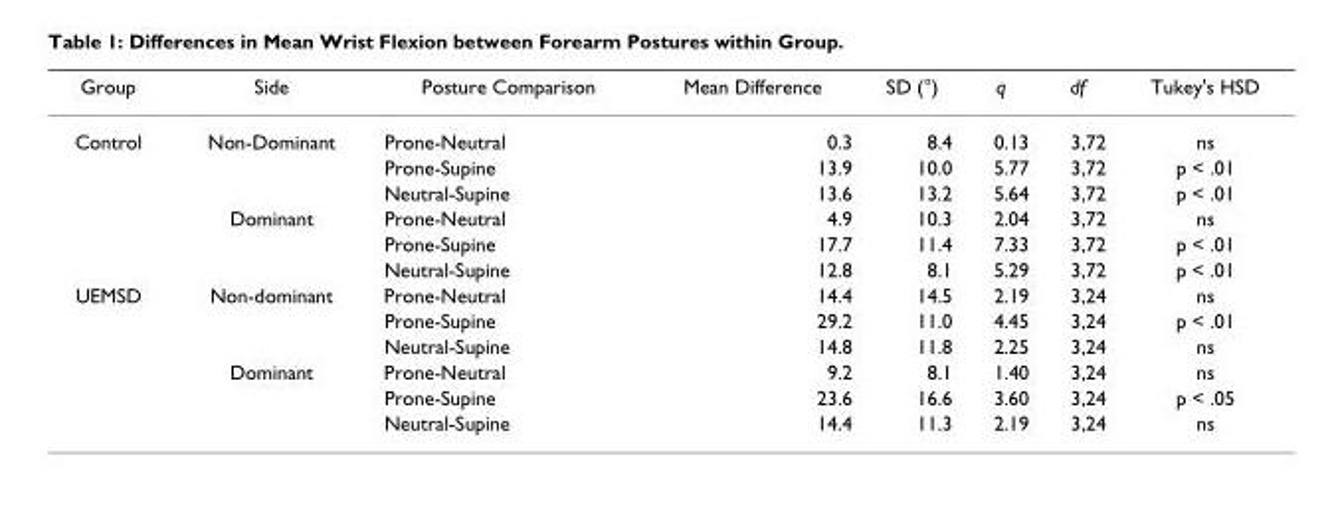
<table><thead><tr><td>Group</td><td>Side</td><td>Posture Comparison</td><td>Mean Difference</td><td>SD (°)</td><td>q</td><td>df</td><td>Tukey&#x27;s HSD</td></tr></thead><tbody><tr><td rowspan="6">Control</td><td>Non-Dominant</td><td>Prone-Neutral</td><td>0.3</td><td>8.4</td><td>0.13</td><td>3,72</td><td>ns</td></tr><tr><td></td><td>Prone-Supine</td><td>13.9</td><td>10.0</td><td>5.77</td><td>3,72</td><td>p &lt; .01</td></tr><tr><td></td><td>Neutral-Supine</td><td>13.6</td><td>13.2</td><td>5.64</td><td>3,72</td><td>p &lt; .01</td></tr><tr><td>Dominant</td><td>Prone-Neutral</td><td>4.9</td><td>10.3</td><td>2.04</td><td>3,72</td><td>ns</td></tr><tr><td></td><td>Prone-Supine</td><td>17.7</td><td>11.4</td><td>7.33</td><td>3,72</td><td>p &lt; .01</td></tr><tr><td></td><td>Neutral-Supine</td><td>12.8</td><td>8.1</td><td>5.29</td><td>3,72</td><td>p &lt; .01</td></tr><tr><td rowspan="6">UEMSD</td><td>Non-dominant</td><td>Prone-Neutral</td><td>14.4</td><td>14.5</td><td>2.19</td><td>3,24</td><td>ns</td></tr><tr><td></td><td>Prone-Supine</td><td>29.2</td><td>11.0</td><td>4.45</td><td>3,24</td><td>p &lt; .01</td></tr><tr><td></td><td>Neutral-Supine</td><td>14.8</td><td>11.8</td><td>2.25</td><td>3,24</td><td>ns</td></tr><tr><td>Dominant</td><td>Prone-Neutral</td><td>9.2</td><td>8.1</td><td>1.40</td><td>3,24</td><td>ns</td></tr><tr><td></td><td>Prone-Supine</td><td>23.6</td><td>16.6</td><td>3.60</td><td>3,24</td><td>p &lt; .05</td></tr><tr><td></td><td>Neutral-Supine</td><td>14.4</td><td>11.3</td><td>2.19</td><td>3,24</td><td>ns</td></tr></tbody></table>